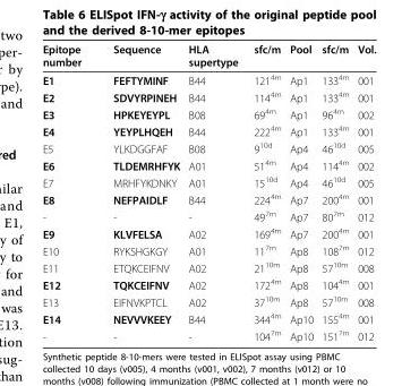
<table><thead><tr><td>Epitope number</td><td>Sequence</td><td>HLA supertype</td><td>sfc/m</td><td>Pool</td><td>sfc/m</td><td>Vol.</td></tr></thead><tbody><tr><td>E1</td><td>FEFTYMINF</td><td>B44</td><td>121<sup>4m</sup></td><td>Ap1</td><td>133<sup>4m</sup></td><td>001</td></tr><tr><td>E2</td><td>SDVYRPINEH</td><td>B44</td><td>114<sup>4m</sup></td><td>Ap1</td><td>133<sup>4m</sup></td><td>001</td></tr><tr><td>E3</td><td>HPKEYEYPL</td><td>B08</td><td>69<sup>4m</sup></td><td>Ap1</td><td>96<sup>4m</sup></td><td>002</td></tr><tr><td>E4</td><td>YEYPLHQEH</td><td>B44</td><td>222<sup>4m</sup></td><td>Ap1</td><td>133<sup>4m</sup></td><td>001</td></tr><tr><td>E5</td><td>YLKDGGFAF</td><td>B08</td><td>9<sup>10d</sup></td><td>Ap4</td><td>46<sup>10d</sup></td><td>005</td></tr><tr><td>E6</td><td>TLDEMRHFYK</td><td>A01</td><td>51<sup>4m</sup></td><td>Ap4</td><td>114<sup>4m</sup></td><td>002</td></tr><tr><td>E7</td><td>MRHFYKDNKY</td><td>A01</td><td>15<sup>10d</sup></td><td>Ap4</td><td>46<sup>10d</sup></td><td>005</td></tr><tr><td>E8</td><td>NEFPAIDLF</td><td>B44</td><td>224<sup>4m</sup></td><td>Ap7</td><td>200<sup>4m</sup></td><td>001</td></tr><tr><td>-</td><td>-</td><td>-</td><td>49<sup>7m</sup></td><td>Ap7</td><td>80<sup>7m</sup></td><td>012</td></tr><tr><td>E9</td><td>KLVFELSA</td><td>A02</td><td>169<sup>4m</sup></td><td>Ap7</td><td>200<sup>4m</sup></td><td>001</td></tr><tr><td>E10</td><td>RYKSHGKGY</td><td>A01</td><td>11<sup>7m</sup></td><td>Ap8</td><td>108<sup>7m</sup></td><td>012</td></tr><tr><td>E11</td><td>ETQKCEIFNV</td><td>A02</td><td>21<sup>10m</sup></td><td>Ap8</td><td>57<sup>10m</sup></td><td>008</td></tr><tr><td>E12</td><td>TQKCEIFNV</td><td>A02</td><td>172<sup>4m</sup></td><td>Ap8</td><td>104<sup>4m</sup></td><td>001</td></tr><tr><td>E13</td><td>EIFNVKPTCL</td><td>A02</td><td>37<sup>10m</sup></td><td>Ap8</td><td>57<sup>10m</sup></td><td>008</td></tr><tr><td>E14</td><td>NEVVVKEEY</td><td>B44</td><td>344<sup>4m</sup></td><td>Ap10</td><td>155<sup>4m</sup></td><td>001</td></tr><tr><td>-</td><td>-</td><td>-</td><td>104<sup>7m</sup></td><td>Ap10</td><td>151<sup>7m</sup></td><td>012</td></tr></tbody></table>